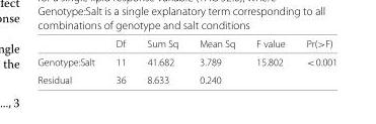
<table><thead><tr><td></td><td>Df</td><td>Sum Sq</td><td>Mean Sq</td><td>F value</td><td>Pr(&gt;F)</td></tr></thead><tbody><tr><td>Genotype:Salt</td><td>11</td><td>41.682</td><td>3.789</td><td>15.802</td><td>&lt;0.001</td></tr><tr><td>Residual</td><td>36</td><td>8.633</td><td>0.240</td><td></td><td></td></tr></tbody></table>